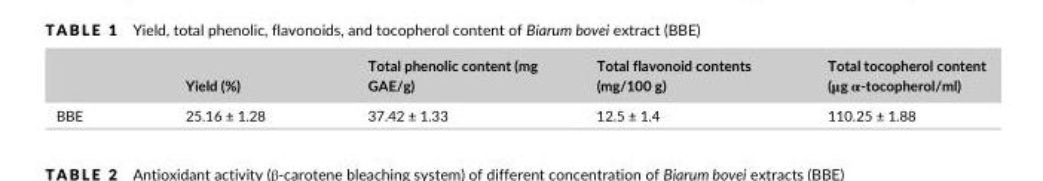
<table><thead><tr><td></td><td>Yield (%)</td><td>Total phenolic content (mg GAE/g)</td><td>Total flavonoid contents (mg/100 g)</td><td>Total tocopherol content (μg α- tocopherol/ml)</td></tr></thead><tbody><tr><td>BBE</td><td>25.16 ± 1.28</td><td>37.42 ± 1.33</td><td>12.5 ± 1.4</td><td>110.25 ± 1.88</td></tr></tbody></table>